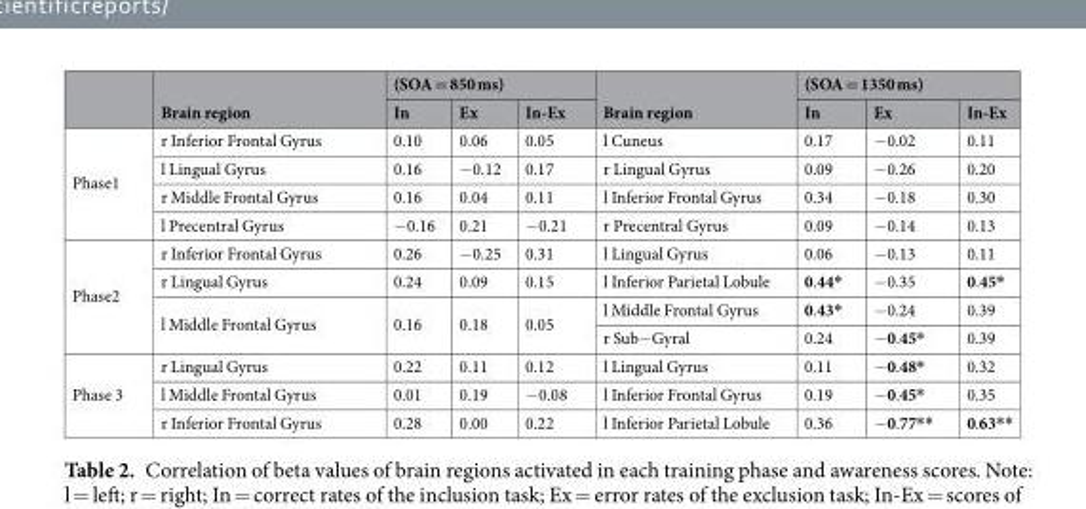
<table><thead><tr><td rowspan="2"></td><td rowspan="2">Brain region</td><td colspan="3">(SOA = 850 ms)</td><td rowspan="2">Brain region</td><td colspan="3">(SOA = 1350 ms)</td></tr><tr><td>In</td><td>Ex</td><td>In-Ex</td><td>In</td><td>Ex</td><td>In-Ex</td></tr></thead><tbody><tr><td rowspan="4">Phase1</td><td>r Inferior Frontal Gyrus</td><td>0.10</td><td>0.06</td><td>0.05</td><td>l Cuneus</td><td>0.17</td><td>−0.02</td><td>0.11</td></tr><tr><td>l Lingual Gyrus</td><td>0.16</td><td>−0.12</td><td>0.17</td><td>r Lingual Gyrus</td><td>0.09</td><td>−0.26</td><td>0.20</td></tr><tr><td>r Middle Frontal Gyrus</td><td>0.16</td><td>0.04</td><td>0.11</td><td>l Inferior Frontal Gyrus</td><td>0.34</td><td>−0.18</td><td>0.30</td></tr><tr><td>l Precentral Gyrus</td><td>−0.16</td><td>0.21</td><td>−0.21</td><td>r Precentral Gyrus</td><td>0.09</td><td>−0.14</td><td>0.13</td></tr><tr><td rowspan="4">Phase2</td><td>r Inferior Frontal Gyrus</td><td>0.26</td><td>−0.25</td><td>0.31</td><td>l Lingual Gyrus</td><td>0.06</td><td>−0.13</td><td>0.11</td></tr><tr><td>r Lingual Gyrus</td><td>0.24</td><td>0.09</td><td>0.15</td><td>l Inferior Parietal Lobule</td><td>0.44*</td><td>−0.35</td><td>0.45*</td></tr><tr><td rowspan="2">l Middle Frontal Gyrus</td><td rowspan="2">0.16</td><td rowspan="2">0.18</td><td rowspan="2">0.05</td><td>l Middle Frontal Gyrus</td><td>0.43*</td><td>−0.24</td><td>0.39</td></tr><tr><td>r Sub−Gyral</td><td>0.24</td><td>−0.45*</td><td>0.39</td></tr><tr><td rowspan="3">Phase 3</td><td>r Lingual Gyrus</td><td>0.22</td><td>0.11</td><td>0.12</td><td>l Lingual Gyrus</td><td>0.11</td><td>−0.48*</td><td>0.32</td></tr><tr><td>l Middle Frontal Gyrus</td><td>0.01</td><td>0.19</td><td>−0.08</td><td>l Inferior Frontal Gyrus</td><td>0.19</td><td>−0.45*</td><td>0.35</td></tr><tr><td>r Inferior Frontal Gyrus</td><td>0.28</td><td>0.00</td><td>0.22</td><td>l Inferior Parietal Lobule</td><td>0.36</td><td>−0.77**</td><td>0.63**</td></tr></tbody></table>